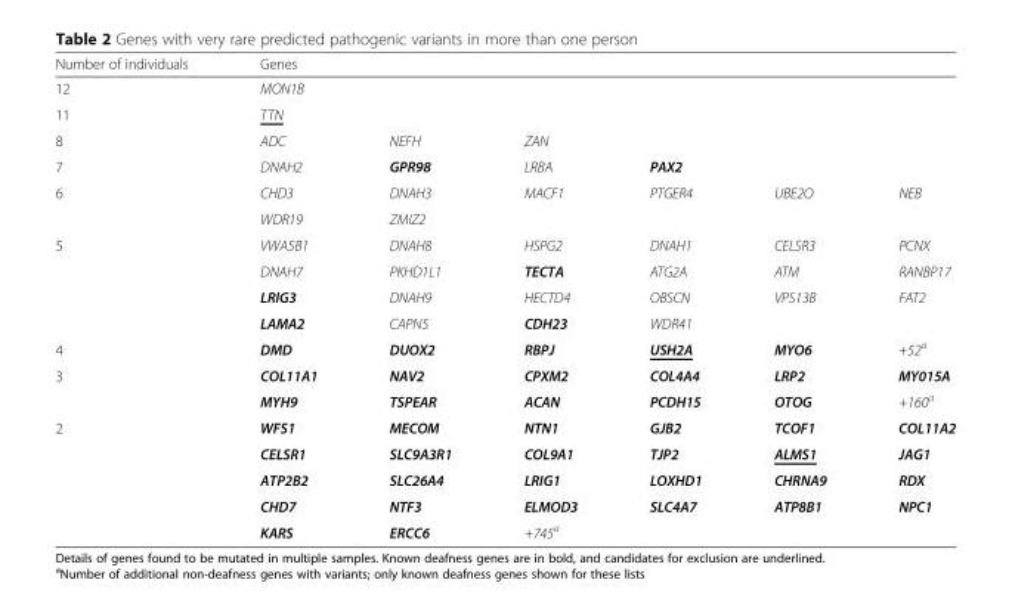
<table><thead><tr><td>Number of individuals</td><td>Genes</td><td></td><td></td><td></td><td></td><td></td></tr></thead><tbody><tr><td>12</td><td>MON1B</td><td></td><td></td><td></td><td></td><td></td></tr><tr><td>11</td><td>TTN</td><td></td><td></td><td></td><td></td><td></td></tr><tr><td>8</td><td>ADC</td><td>NEFH</td><td>ZAN</td><td></td><td></td><td></td></tr><tr><td>7</td><td>DNAH2</td><td>GPR98</td><td>LRBA</td><td>PAX2</td><td></td><td></td></tr><tr><td rowspan="2">6</td><td>CHD3</td><td>DNAH3</td><td>MACF1</td><td>PTGER4</td><td>UBE2O</td><td>NEB</td></tr><tr><td>WDR19</td><td>ZMIZ2</td><td></td><td></td><td></td><td></td></tr><tr><td rowspan="4">5</td><td>VWA5B1</td><td>DNAH8</td><td>HSPG2</td><td>DNAH1</td><td>CELSR3</td><td>PCNX</td></tr><tr><td>DNAH7</td><td>PKHD1L1</td><td>TECTA</td><td>ATG2A</td><td>ATM</td><td>RANBP17</td></tr><tr><td>LRIG3</td><td>DNAH9</td><td>HECTD4</td><td>OBSCN</td><td>VPS13B</td><td>FAT2</td></tr><tr><td>LAMA2</td><td>CAPN5</td><td>CDH23</td><td>WDR41</td><td></td><td></td></tr><tr><td>4</td><td>DMD</td><td>DUOX2</td><td>RBPJ</td><td>USH2A</td><td>MYO6</td><td>+52<sup>a</sup></td></tr><tr><td rowspan="2">3</td><td>COL11A1</td><td>NAV2</td><td>CPXM2</td><td>COL4A4</td><td>LRP2</td><td>MY015A</td></tr><tr><td>MYH9</td><td>TSPEAR</td><td>ACAN</td><td>PCDH15</td><td>OTOG</td><td>+160<sup>a</sup></td></tr><tr><td rowspan="5">2</td><td>WFS1</td><td>MECOM</td><td>NTN1</td><td>GJB2</td><td>TCOF1</td><td>COL11A2</td></tr><tr><td>CELSR1</td><td>SLC9A3R1</td><td>COL9A1</td><td>TJP2</td><td>ALMS1</td><td>JAG1</td></tr><tr><td>ATP2B2</td><td>SLC26A4</td><td>LRIG1</td><td>LOXHD1</td><td>CHRNA9</td><td>RDX</td></tr><tr><td>CHD7</td><td>NTF3</td><td>ELMOD3</td><td>SLC4A7</td><td>ATP8B1</td><td>NPC1</td></tr><tr><td>KARS</td><td>ERCC6</td><td>+745<sup>a</sup></td><td></td><td></td><td></td></tr></tbody></table>